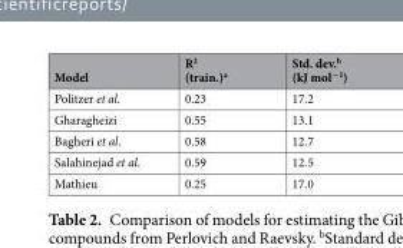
<table><thead><tr><td>Model</td><td>R<sup>2</sup> (train.)<sup>a</sup></td><td>Std. dev.<sup>b</sup> (kJ mol<sup>−1</sup>)</td></tr></thead><tbody><tr><td>Politzer et al.</td><td>0.23</td><td>17.2</td></tr><tr><td>Gharagheizi</td><td>0.55</td><td>13.1</td></tr><tr><td>Bagheri et al.</td><td>0.58</td><td>12.7</td></tr><tr><td>Salahinejad et al.</td><td>0.59</td><td>12.5</td></tr><tr><td>Mathieu</td><td>0.25</td><td>17.0</td></tr></tbody></table>